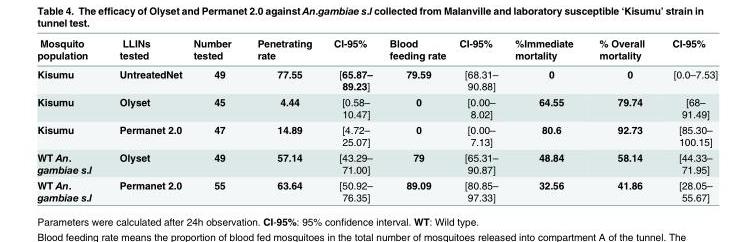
<table><thead><tr><td>Mosquito population</td><td>LLINs tested</td><td>Number tested</td><td>Penetrating rate</td><td>CI-95%</td><td>Blood feeding rate</td><td>CI-95%</td><td>%Immediate mortality</td><td>% Overall mortality</td><td>CI-95%</td></tr></thead><tbody><tr><td>Kisumu</td><td>UntreatedNet</td><td>49</td><td>77.55</td><td>[65.87– 89.23]</td><td>79.59</td><td>[68.31– 90.88]</td><td>0</td><td>0</td><td>[0.0–7.53]</td></tr><tr><td>Kisumu</td><td>Olyset</td><td>45</td><td>4.44</td><td>[0.58– 10.47]</td><td>0</td><td>[0.00– 8.02]</td><td>64.55</td><td>79.74</td><td>[68– 91.49]</td></tr><tr><td>Kisumu</td><td>Permanet 2.0</td><td>47</td><td>14.89</td><td>[4.72– 25.07]</td><td>0</td><td>[0.00– 7.13]</td><td>80.6</td><td>92.73</td><td>[85.30– 100.15]</td></tr><tr><td>WT An. gambiae s.l</td><td>Olyset</td><td>49</td><td>57.14</td><td>[43.29– 71.00]</td><td>79</td><td>[65.31– 90.87]</td><td>48.84</td><td>58.14</td><td>[44.33– 71.95]</td></tr><tr><td>WT An. gambiae s.l</td><td>Permanet 2.0</td><td>55</td><td>63.64</td><td>[50.92– 76.35]</td><td>89.09</td><td>[80.85– 97.33]</td><td>32.56</td><td>41.86</td><td>[28.05– 55.67]</td></tr></tbody></table>